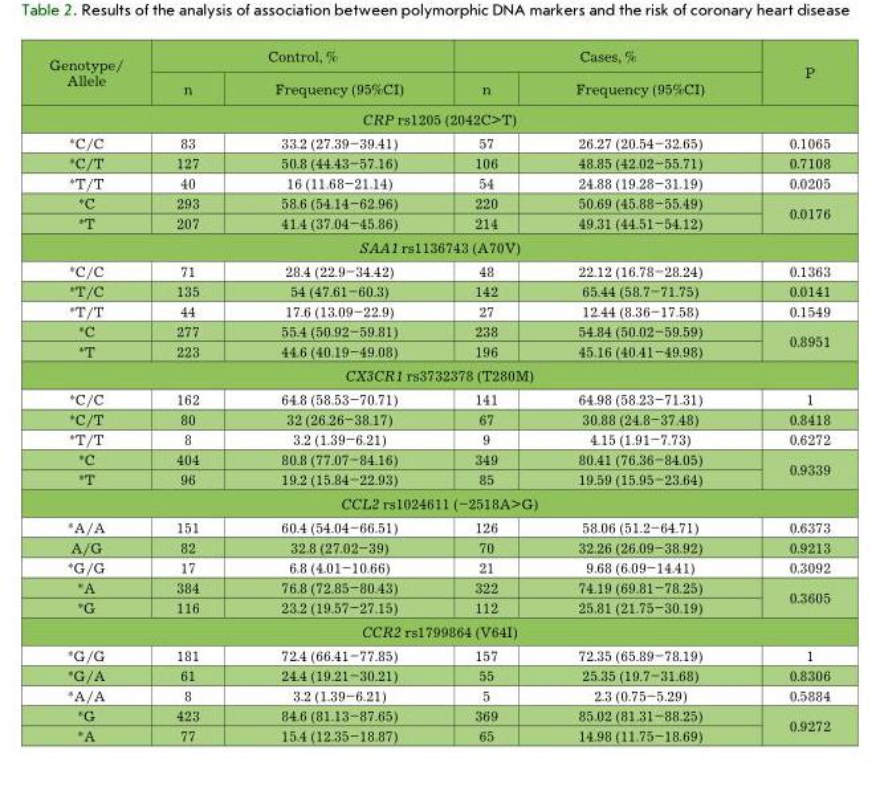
<table><thead><tr><td rowspan="2">Genotype/ Allele</td><td colspan="2">Control, %</td><td colspan="2">Cases, %</td><td rowspan="2">P</td></tr><tr><td>n</td><td>Frequency (95%CI)</td><td>n</td><td>Frequency (95%CI)</td></tr></thead><tbody><tr><td colspan="6">CRP rs1205 (2042C&gt;T)</td></tr><tr><td>*C/C</td><td>83</td><td>33.2 (27.39–39.41)</td><td>57</td><td>26.27 (20.54–32.65)</td><td>0.1065</td></tr><tr><td>*C/T</td><td>127</td><td>50.8 (44.43–57.16)</td><td>106</td><td>48.85 (42.02–55.71)</td><td>0.7108</td></tr><tr><td>*T/T</td><td>40</td><td>16 (11.68–21.14)</td><td>54</td><td>24.88 (19.28–31.19)</td><td>0.0205</td></tr><tr><td>*C</td><td>293</td><td>58.6 (54.14–62.96)</td><td>220</td><td>50.69 (45.88–55.49)</td><td rowspan="2">0.0176</td></tr><tr><td>*T</td><td>207</td><td>41.4 (37.04–45.86)</td><td>214</td><td>49.31 (44.51–54.12)</td></tr><tr><td colspan="6">SAA1 rs1136743 (A70V)</td></tr><tr><td>*C/C</td><td>71</td><td>28.4 (22.9–34.42)</td><td>48</td><td>22.12 (16.78–28.24)</td><td>0.1363</td></tr><tr><td>*T/C</td><td>135</td><td>54 (47.61–60.3)</td><td>142</td><td>65.44 (58.7–71.75)</td><td>0.0141</td></tr><tr><td>*T/T</td><td>44</td><td>17.6 (13.09–22.9)</td><td>27</td><td>12.44 (8.36–17.58)</td><td>0.1549</td></tr><tr><td>*C</td><td>277</td><td>55.4 (50.92–59.81)</td><td>238</td><td>54.84 (50.02–59.59)</td><td rowspan="2">0.8951</td></tr><tr><td>*T</td><td>223</td><td>44.6 (40.19–49.08)</td><td>196</td><td>45.16 (40.41–49.98)</td></tr><tr><td colspan="6">CX3CR1 rs3732378 (T280M)</td></tr><tr><td>*C/C</td><td>162</td><td>64.8 (58.53–70.71)</td><td>141</td><td>64.98 (58.23–71.31)</td><td>1</td></tr><tr><td>*C/T</td><td>80</td><td>32 (26.26–38.17)</td><td>67</td><td>30.88 (24.8–37.48)</td><td>0.8418</td></tr><tr><td>*T/T</td><td>8</td><td>3.2 (1.39–6.21)</td><td>9</td><td>4.15 (1.91–7.73)</td><td>0.6272</td></tr><tr><td>*C</td><td>404</td><td>80.8 (77.07–84.16)</td><td>349</td><td>80.41 (76.36–84.05)</td><td rowspan="2">0.9339</td></tr><tr><td>*T</td><td>96</td><td>19.2 (15.84–22.93)</td><td>85</td><td>19.59 (15.95–23.64)</td></tr><tr><td colspan="6">CCL2 rs1024611 (–2518A&gt;G)</td></tr><tr><td>*A/A</td><td>151</td><td>60.4 (54.04–66.51)</td><td>126</td><td>58.06 (51.2–64.71)</td><td>0.6373</td></tr><tr><td>A/G</td><td>82</td><td>32.8 (27.02–39)</td><td>70</td><td>32.26 (26.09–38.92)</td><td>0.9213</td></tr><tr><td>*G/G</td><td>17</td><td>6.8 (4.01–10.66)</td><td>21</td><td>9.68 (6.09–14.41)</td><td>0.3092</td></tr><tr><td>*A</td><td>384</td><td>76.8 (72.85–80.43)</td><td>322</td><td>74.19 (69.81–78.25)</td><td rowspan="2">0.3605</td></tr><tr><td>*G</td><td>116</td><td>23.2 (19.57–27.15)</td><td>112</td><td>25.81 (21.75–30.19)</td></tr><tr><td colspan="6">CCR2 rs1799864 (V64I)</td></tr><tr><td>*G/G</td><td>181</td><td>72.4 (66.41–77.85)</td><td>157</td><td>72.35 (65.89–78.19)</td><td>1</td></tr><tr><td>*G/A</td><td>61</td><td>24.4 (19.21–30.21)</td><td>55</td><td>25.35 (19.7–31.68)</td><td>0.8306</td></tr><tr><td>*A/A</td><td>8</td><td>3.2 (1.39–6.21)</td><td>5</td><td>2.3 (0.75–5.29)</td><td>0.5884</td></tr><tr><td>*G</td><td>423</td><td>84.6 (81.13–87.65)</td><td>369</td><td>85.02 (81.31–88.25)</td><td rowspan="2">0.9272</td></tr><tr><td>*A</td><td>77</td><td>15.4 (12.35–18.87)</td><td>65</td><td>14.98 (11.75–18.69)</td></tr></tbody></table>